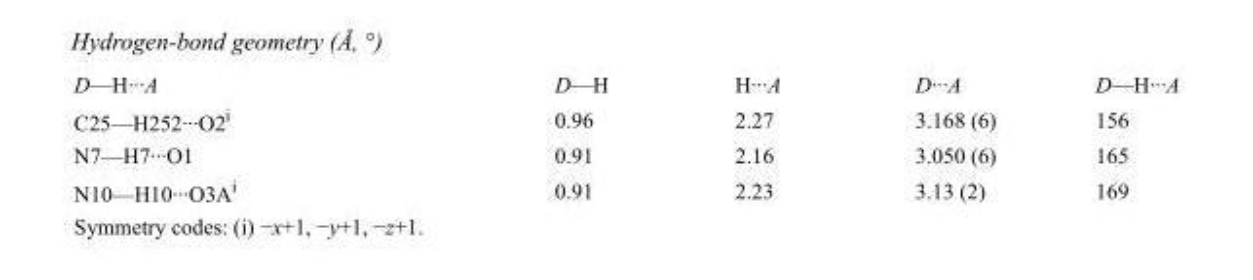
<table><tbody><tr><td>D—H···A</td><td>D—H</td><td>H···A</td><td>D···A</td><td>D—H···A</td></tr><tr><td>C25—H252···O2<sup>i</sup></td><td>0.96</td><td>2.27</td><td>3.168 (6)</td><td>156</td></tr><tr><td>N7—H7···O1</td><td>0.91</td><td>2.16</td><td>3.050 (6)</td><td>165</td></tr><tr><td>N10—H10···O3A<sup>i</sup></td><td>0.91</td><td>2.23</td><td>3.13 (2)</td><td>169</td></tr></tbody></table>